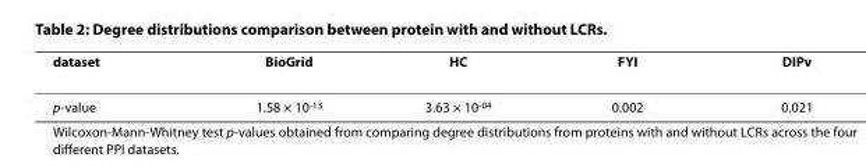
<table><thead><tr><td>dataset</td><td>BioGrid</td><td>HC</td><td>FYI</td><td>DIPv</td></tr></thead><tbody><tr><td>p-value</td><td>1.58 × 10<sup>-13</sup></td><td>3.63 × 10<sup>-04</sup></td><td>0.002</td><td>0.021</td></tr></tbody></table>